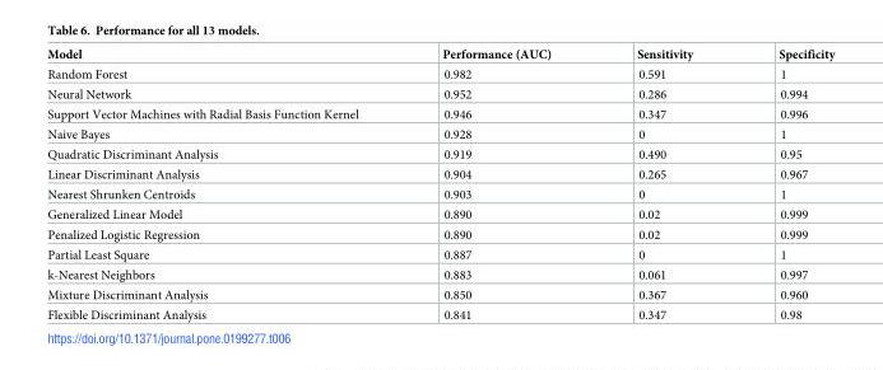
<table><thead><tr><td>Model</td><td>Performance (AUC)</td><td>Sensitivity</td><td>Specificity</td></tr></thead><tbody><tr><td>Random Forest</td><td>0.982</td><td>0.591</td><td>1</td></tr><tr><td>Neural Network</td><td>0.952</td><td>0.286</td><td>0.994</td></tr><tr><td>Support Vector Machines with Radial Basis Function Kernel</td><td>0.946</td><td>0.347</td><td>0.996</td></tr><tr><td>Naive Bayes</td><td>0.928</td><td>0</td><td>1</td></tr><tr><td>Quadratic Discriminant Analysis</td><td>0.919</td><td>0.490</td><td>0.95</td></tr><tr><td>Linear Discriminant Analysis</td><td>0.904</td><td>0.265</td><td>0.967</td></tr><tr><td>Nearest Shrunken Centroids</td><td>0.903</td><td>0</td><td>1</td></tr><tr><td>Generalized Linear Model</td><td>0.890</td><td>0.02</td><td>0.999</td></tr><tr><td>Penalized Logistic Regression</td><td>0.890</td><td>0.02</td><td>0.999</td></tr><tr><td>Partial Least Square</td><td>0.887</td><td>0</td><td>1</td></tr><tr><td>k-Nearest Neighbors</td><td>0.883</td><td>0.061</td><td>0.997</td></tr><tr><td>Mixture Discriminant Analysis</td><td>0.850</td><td>0.367</td><td>0.960</td></tr><tr><td>Flexible Discriminant Analysis</td><td>0.841</td><td>0.347</td><td>0.98</td></tr></tbody></table>